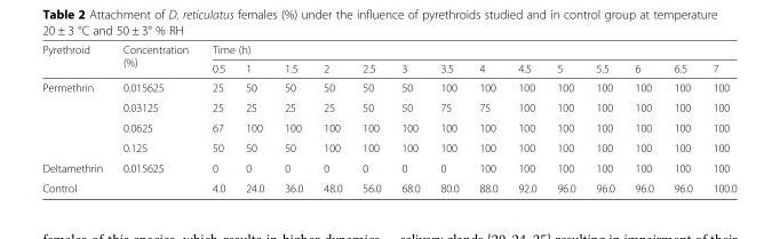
<table><thead><tr><td rowspan="2">Pyrethroid</td><td rowspan="2">Concentration (%)</td><td colspan="14">Time (h)</td></tr><tr><td>0.5</td><td>1</td><td>1.5</td><td>2</td><td>2.5</td><td>3</td><td>3.5</td><td>4</td><td>4.5</td><td>5</td><td>5.5</td><td>6</td><td>6.5</td><td>7</td></tr></thead><tbody><tr><td rowspan="4">Permethrin</td><td>0.015625</td><td>25</td><td>50</td><td>50</td><td>50</td><td>50</td><td>50</td><td>100</td><td>100</td><td>100</td><td>100</td><td>100</td><td>100</td><td>100</td><td>100</td></tr><tr><td>0.03125</td><td>25</td><td>25</td><td>25</td><td>25</td><td>50</td><td>50</td><td>75</td><td>75</td><td>100</td><td>100</td><td>100</td><td>100</td><td>100</td><td>100</td></tr><tr><td>0.0625</td><td>67</td><td>100</td><td>100</td><td>100</td><td>100</td><td>100</td><td>100</td><td>100</td><td>100</td><td>100</td><td>100</td><td>100</td><td>100</td><td>100</td></tr><tr><td>0.125</td><td>50</td><td>50</td><td>50</td><td>100</td><td>100</td><td>100</td><td>100</td><td>100</td><td>100</td><td>100</td><td>100</td><td>100</td><td>100</td><td>100</td></tr><tr><td>Deltamethrin</td><td>0.015625</td><td>0</td><td>0</td><td>0</td><td>0</td><td>0</td><td>0</td><td>0</td><td>100</td><td>100</td><td>100</td><td>100</td><td>100</td><td>100</td><td>100</td></tr><tr><td colspan="2">Control</td><td>4.0</td><td>24.0</td><td>36.0</td><td>48.0</td><td>56.0</td><td>68.0</td><td>80.0</td><td>88.0</td><td>92.0</td><td>96.0</td><td>96.0</td><td>96.0</td><td>96.0</td><td>100.0</td></tr></tbody></table>